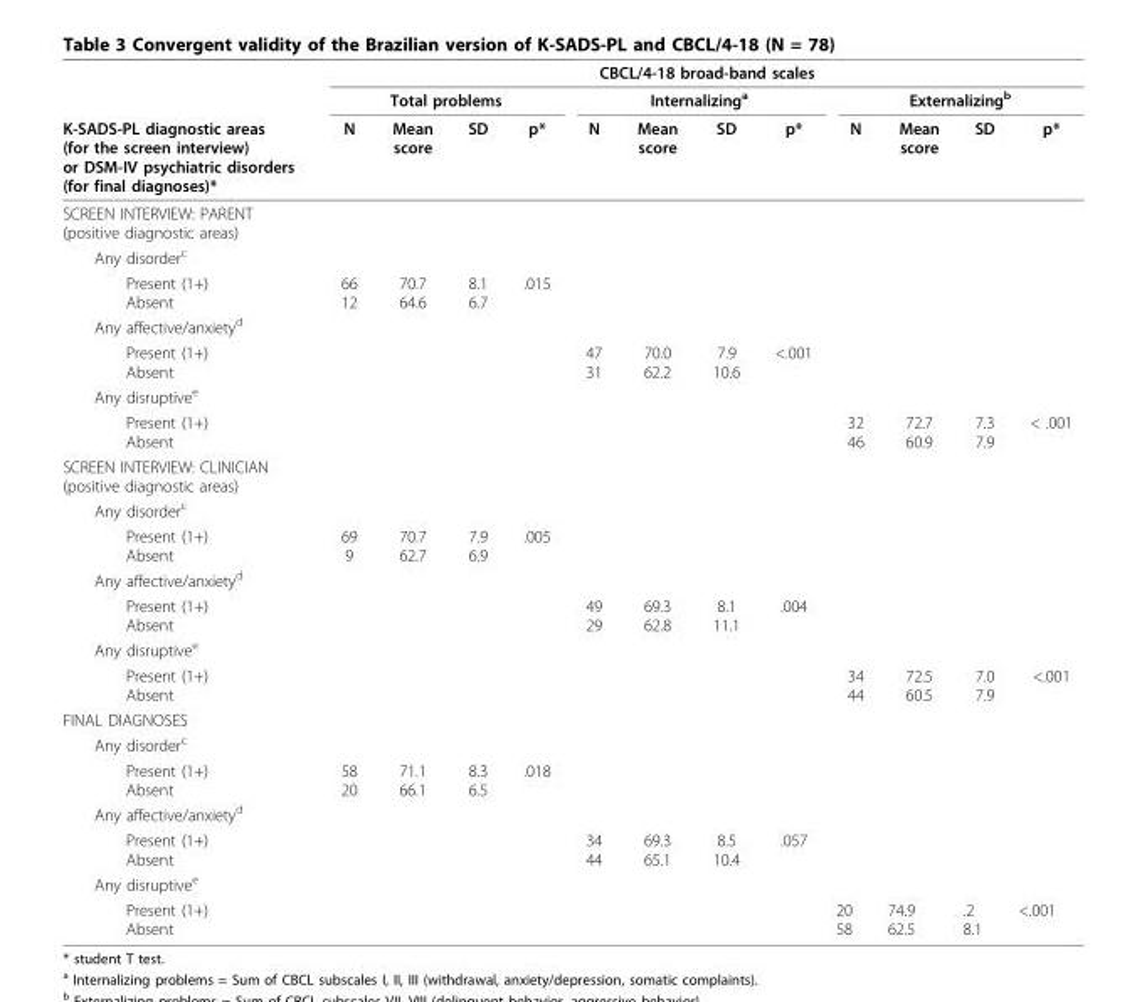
<table><thead><tr><td rowspan="3">K-SADS-PL diagnostic areas (for the screen interview) or DSM-IV psychiatric disorders (for final diagnoses)*</td><td colspan="12">CBCL/4-18 broad-band scales</td></tr><tr><td colspan="4">Total problems</td><td colspan="4">Internalizing<sup>a</sup></td><td colspan="4">Externalizing<sup>b</sup></td></tr><tr><td>N</td><td>Mean score</td><td>SD</td><td>p*</td><td>N</td><td>Mean score</td><td>SD</td><td>p*</td><td>N</td><td>Mean score</td><td>SD</td><td>p*</td></tr></thead><tbody><tr><td colspan="13">SCREEN INTERVIEW: PARENT (positive diagnostic areas)</td></tr><tr><td colspan="13">Any disorder<sup>c</sup></td></tr><tr><td>Present (1+) Absent</td><td>66 12</td><td>70.7 64.6</td><td>8.1 6.7</td><td>.015</td><td></td><td></td><td></td><td></td><td></td><td></td><td></td><td></td></tr><tr><td colspan="13">Any affective/anxiety<sup>d</sup></td></tr><tr><td>Present (1+) Absent</td><td></td><td></td><td></td><td></td><td>47 31</td><td>70.0 62.2</td><td>7.9 10.6</td><td>&lt;.001</td><td></td><td></td><td></td><td></td></tr><tr><td colspan="13">Any disruptive<sup>e</sup></td></tr><tr><td>Present (1+) Absent</td><td></td><td></td><td></td><td></td><td></td><td></td><td></td><td></td><td>32 46</td><td>72.7 60.9</td><td>7.3 7.9</td><td>&lt; .001</td></tr><tr><td colspan="13">SCREEN INTERVIEW: CLINICIAN (positive diagnostic areas)</td></tr><tr><td colspan="13">Any disorder<sup>c</sup></td></tr><tr><td>Present (1+) Absent</td><td>69 9</td><td>70.7 62.7</td><td>7.9 6.9</td><td>.005</td><td></td><td></td><td></td><td></td><td></td><td></td><td></td><td></td></tr><tr><td colspan="13">Any affective/anxiety<sup>d</sup></td></tr><tr><td>Present (1+) Absent</td><td></td><td></td><td></td><td></td><td>49 29</td><td>69.3 62.8</td><td>8.1 11.1</td><td>.004</td><td></td><td></td><td></td><td></td></tr><tr><td colspan="13">Any disruptive<sup>e</sup></td></tr><tr><td>Present (1+) Absent</td><td></td><td></td><td></td><td></td><td></td><td></td><td></td><td></td><td>34 44</td><td>72.5 60.5</td><td>7.0 7.9</td><td>&lt;.001</td></tr><tr><td colspan="13">FINAL DIAGNOSES</td></tr><tr><td colspan="13">Any disorder<sup>c</sup></td></tr><tr><td>Present (1+) Absent</td><td>58 20</td><td>71.1 66.1</td><td>8.3 6.5</td><td>.018</td><td></td><td></td><td></td><td></td><td></td><td></td><td></td><td></td></tr><tr><td colspan="13">Any affective/anxiety<sup>d</sup></td></tr><tr><td>Present (1+) Absent</td><td></td><td></td><td></td><td></td><td>34 44</td><td>69.3 65.1</td><td>8.5 10.4</td><td>.057</td><td></td><td></td><td></td><td></td></tr><tr><td colspan="13">Any disruptive<sup>e</sup></td></tr><tr><td>Present (1+) Absent</td><td></td><td></td><td></td><td></td><td></td><td></td><td></td><td></td><td>20 58</td><td>74.9 62.5</td><td>.2 8.1</td><td>&lt;.001</td></tr></tbody></table>